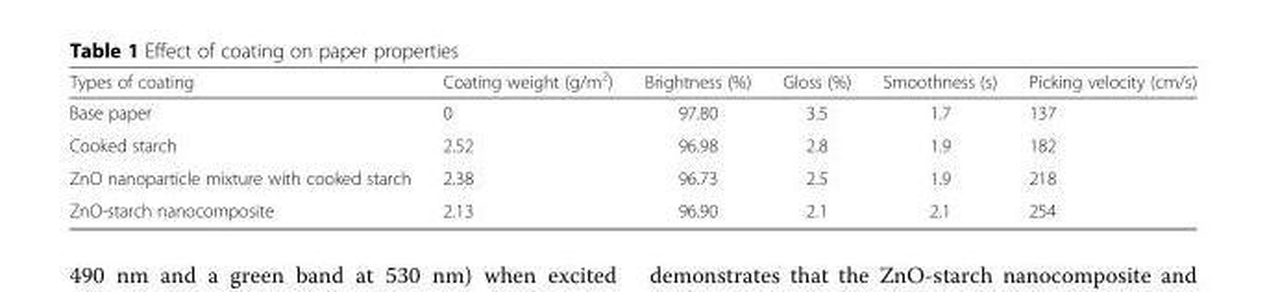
<table><thead><tr><td>Types of coating</td><td>Coating weight (g/m<sup>2</sup>)</td><td>Brightness (%)</td><td>Gloss (%)</td><td>Smoothness (s)</td><td>Picking velocity (cm/s)</td></tr></thead><tbody><tr><td>Base paper</td><td>0</td><td>97.80</td><td>3.5</td><td>1.7</td><td>137</td></tr><tr><td>Cooked starch</td><td>2.52</td><td>96.98</td><td>2.8</td><td>1.9</td><td>182</td></tr><tr><td>ZnO nanoparticle mixture with cooked starch</td><td>2.38</td><td>96.73</td><td>2.5</td><td>1.9</td><td>218</td></tr><tr><td>ZnO-starch nanocomposite</td><td>2.13</td><td>96.90</td><td>2.1</td><td>2.1</td><td>254</td></tr></tbody></table>